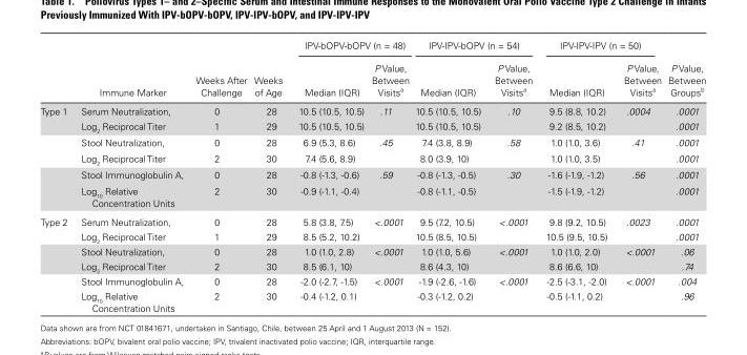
<table><thead><tr><td rowspan="2"></td><td rowspan="2">Immune Marker</td><td rowspan="2">Weeks After Challenge</td><td rowspan="2">Weeks of Age</td><td colspan="2">IPV-bOPV-bOPV (n = 48)</td><td colspan="2">IPV-IPV-bOPV (n = 54)</td><td colspan="2">IPV-IPV-IPV (n = 50)</td><td rowspan="2">P Value, Between Groups<sup>b</sup></td></tr><tr><td>Median (IQR)</td><td>P Value, Between Visits<sup>a</sup></td><td>Median (IQR)</td><td>P Value, Between Visits<sup>a</sup></td><td>Median (IQR)</td><td>P Value, Between Visits<sup>a</sup></td></tr></thead><tbody><tr><td rowspan="6">Type 1</td><td>Serum Neutralization,</td><td>0</td><td>28</td><td>10.5 (10.5, 10.5)</td><td>.11</td><td>10.5 (10.5, 10.5)</td><td>.10</td><td>9.5 (8.8, 10.2)</td><td>.0004</td><td>.0001</td></tr><tr><td>Log<sub>2</sub> Reciprocal Titer</td><td>1</td><td>29</td><td>10.5 (10.5, 10.5)</td><td></td><td>10.5 (10.5, 10.5)</td><td></td><td>9.2 (8.5, 10.2)</td><td></td><td>.0001</td></tr><tr><td>Stool Neutralization,</td><td>0</td><td>28</td><td>6.9 (5.3, 8.6)</td><td>.45</td><td>7.4 (3.8, 8.9)</td><td>.58</td><td>1.0 (1.0, 3.6)</td><td>.41</td><td>.0001</td></tr><tr><td>Log<sub>2</sub> Reciprocal Titer</td><td>2</td><td>30</td><td>7.4 (5.6, 8.9)</td><td></td><td>8.0 (3.9, 10)</td><td></td><td>1.0 (1.0, 3.5)</td><td></td><td>.0001</td></tr><tr><td>Stool Immunoglobulin A,</td><td>0</td><td>28</td><td>-0.8 (-1.3, -0.6)</td><td>.59</td><td>-0.8 (-1.3, -0.5)</td><td>.30</td><td>-1.6 (-1.9, -1.2)</td><td>.56</td><td>.0001</td></tr><tr><td>Log<sub>10</sub> Relative Concentration Units</td><td>2</td><td>30</td><td>-0.9 (-1.1, -0.4)</td><td></td><td>-0.8 (-1.1, -0.5)</td><td></td><td>-1.5 (-1.9, -1.2)</td><td></td><td>.0001</td></tr><tr><td rowspan="6">Type 2</td><td>Serum Neutralization,</td><td>0</td><td>28</td><td>5.8 (3.8, 7.5)</td><td>&lt;.0001</td><td>9.5 (7.2, 10.5)</td><td>&lt;.0001</td><td>9.8 (9.2, 10.5)</td><td>.0023</td><td>.0001</td></tr><tr><td>Log<sub>2</sub> Reciprocal Titer</td><td>1</td><td>29</td><td>8.5 (5.2, 10.2)</td><td></td><td>10.5 (8.5, 10.5)</td><td></td><td>10.5 (9.5, 10.5)</td><td></td><td>.0001</td></tr><tr><td>Stool Neutralization,</td><td>0</td><td>28</td><td>1.0 (1.0, 2.8)</td><td>&lt;.0001</td><td>1.0 (1.0, 5.6)</td><td>&lt;.0001</td><td>1.0 (1.0, 2.0)</td><td>&lt;.0001</td><td>.06</td></tr><tr><td>Log<sub>2</sub> Reciprocal Titer</td><td>2</td><td>30</td><td>8.5 (6.1, 10)</td><td></td><td>8.6 (4.3, 10)</td><td></td><td>8.6 (6.6, 10)</td><td></td><td>.74</td></tr><tr><td>Stool Immunoglobulin A,</td><td>0</td><td>28</td><td>-2.0 (-2.7, -1.5)</td><td>&lt;.0001</td><td>-1.9 (-2.6, -1.6)</td><td>&lt;.0001</td><td>-2.5 (-3.1, -2.0)</td><td>&lt;.0001</td><td>.004</td></tr><tr><td>Log<sub>10</sub> Relative Concentration Units</td><td>2</td><td>30</td><td>-0.4 (-1.2, 0.1)</td><td></td><td>-0.3 (-1.2, 0.2)</td><td></td><td>-0.5 (-1.1, 0.2)</td><td></td><td>.96</td></tr></tbody></table>